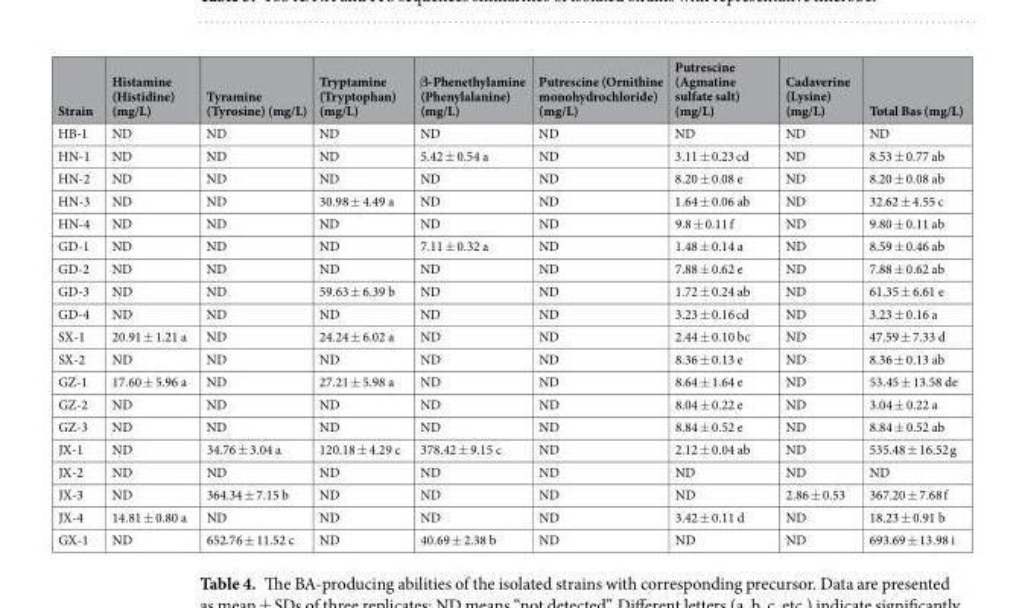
<table><thead><tr><td rowspan="2">Strain HB-1</td><td rowspan="2">Histamine (Histidine) (mg/L) ND</td><td rowspan="2">Tyramine (Tyrosine) (mg/L) ND</td><td rowspan="2">Tryptamine (Tryptophan) (mg/L) ND</td><td rowspan="2">β-Phenethylamine (Phenylalanine) (mg/L) ND</td><td rowspan="2">Putrescine (Ornithine monohydrochloride) (mg/L) ND</td><td rowspan="2">Putrescine (Agmatine sulfate salt) (mg/L) ND</td><td rowspan="2">Cadaverine (Lysine) (mg/L) ND</td><td rowspan="2">Total Bas (mg/L) ND</td></tr><tr></tr></thead><tbody><tr><td>HN-1</td><td>ND</td><td>ND</td><td>ND</td><td>5.42 ± 0.54 a</td><td>ND</td><td>3.11 ± 0.23 cd</td><td>ND</td><td>8.53 ± 0.77 ab</td></tr><tr><td>HN-2</td><td>ND</td><td>ND</td><td>ND</td><td>ND</td><td>ND</td><td>8.20 ± 0.08 e</td><td>ND</td><td>8.20 ± 0.08 ab</td></tr><tr><td>HN-3</td><td>ND</td><td>ND</td><td>30.98 ± 4.49 a</td><td>ND</td><td>ND</td><td>1.64 ± 0.06 ab</td><td>ND</td><td>32.62 ± 4.55 c</td></tr><tr><td>HN-4</td><td>ND</td><td>ND</td><td>ND</td><td>ND</td><td>ND</td><td>9.8 ± 0.11 f</td><td>ND</td><td>9.80 ± 0.11 ab</td></tr><tr><td>GD-1</td><td>ND</td><td>ND</td><td>ND</td><td>7.11 ± 0.32 a</td><td>ND</td><td>1.48 ± 0.14 a</td><td>ND</td><td>8.59 ± 0.46 ab</td></tr><tr><td>GD-2</td><td>ND</td><td>ND</td><td>ND</td><td>ND</td><td>ND</td><td>7.88 ± 0.62 e</td><td>ND</td><td>7.88 ± 0.62 ab</td></tr><tr><td>GD-3</td><td>ND</td><td>ND</td><td>59.63 ± 6.39 b</td><td>ND</td><td>ND</td><td>1.72 ± 0.24 ab</td><td>ND</td><td>61.35 ± 6.61 e</td></tr><tr><td>GD-4</td><td>ND</td><td>ND</td><td>ND</td><td>ND</td><td>ND</td><td>3.23 ± 0.16 cd</td><td>ND</td><td>3.23 ± 0.16 a</td></tr><tr><td>SX-1</td><td>20.91 ± 1.21 a</td><td>ND</td><td>24.24 ± 6.02 a</td><td>ND</td><td>ND</td><td>2.44 ± 0.10 bc</td><td>ND</td><td>47.59 ± 7.33 d</td></tr><tr><td>SX-2</td><td>ND</td><td>ND</td><td>ND</td><td>ND</td><td>ND</td><td>8.36 ± 0.13 e</td><td>ND</td><td>8.36 ± 0.13 ab</td></tr><tr><td>GZ-1</td><td>17.60 ± 5.96 a</td><td>ND</td><td>27.21 ± 5.98 a</td><td>ND</td><td>ND</td><td>8.64 ± 1.64 e</td><td>ND</td><td>53.45 ± 13.58 de</td></tr><tr><td>GZ-2</td><td>ND</td><td>ND</td><td>ND</td><td>ND</td><td>ND</td><td>8.04 ± 0.22 e</td><td>ND</td><td>3.04 ± 0.22 a</td></tr><tr><td>GZ-3</td><td>ND</td><td>ND</td><td>ND</td><td>ND</td><td>ND</td><td>8.84 ± 0.52 e</td><td>ND</td><td>8.84 ± 0.52 ab</td></tr><tr><td>JX-1</td><td>ND</td><td>34.76 ± 3.04 a</td><td>120.18 ± 4.29 c</td><td>378.42 ± 9.15 c</td><td>ND</td><td>2.12 ± 0.04 ab</td><td>ND</td><td>535.48 ± 16.52 g</td></tr><tr><td>JX-2</td><td>ND</td><td>ND</td><td>ND</td><td>ND</td><td>ND</td><td>ND</td><td>ND</td><td>ND</td></tr><tr><td>JX-3</td><td>ND</td><td>364.34 ± 7.15 b</td><td>ND</td><td>ND</td><td>ND</td><td>ND</td><td>2.86 ± 0.53</td><td>367.20 ± 7.68 f</td></tr><tr><td>JX-4</td><td>14.81 ± 0.80 a</td><td>ND</td><td>ND</td><td>ND</td><td>ND</td><td>3.42 ± 0.11 d</td><td>ND</td><td>18.23 ± 0.91 b</td></tr><tr><td>GX-1</td><td>ND</td><td>652.76 ± 11.52 c</td><td>ND</td><td>40.69 ± 2.38 b</td><td>ND</td><td>ND</td><td>ND</td><td>693.69 ± 13.98 i</td></tr></tbody></table>